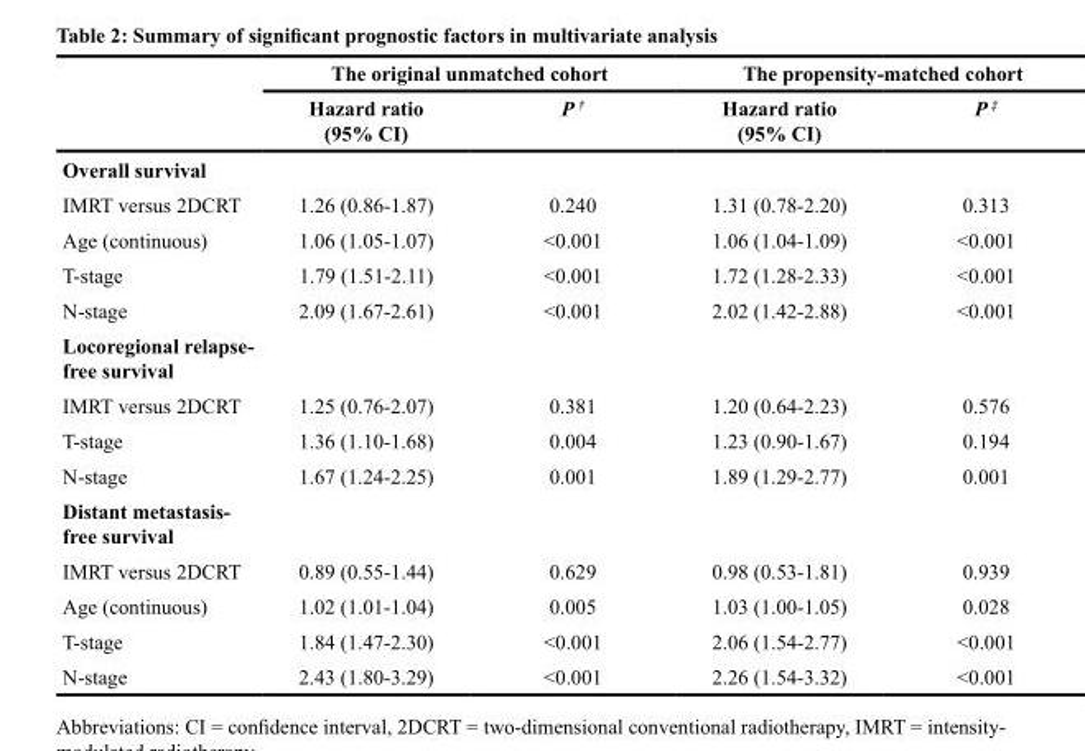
<table><thead><tr><td rowspan="2"></td><td colspan="2">The original unmatched cohort</td><td colspan="2">The propensity-matched cohort</td></tr><tr><td>Hazard ratio (95% CI)</td><td>P <sup>†</sup></td><td>Hazard ratio (95% CI)</td><td>P <sup>‡</sup></td></tr></thead><tbody><tr><td colspan="5">Overall survival</td></tr><tr><td>IMRT versus 2DCRT</td><td>1.26 (0.86-1.87)</td><td>0.240</td><td>1.31 (0.78-2.20)</td><td>0.313</td></tr><tr><td>Age (continuous)</td><td>1.06 (1.05-1.07)</td><td>&lt;0.001</td><td>1.06 (1.04-1.09)</td><td>&lt;0.001</td></tr><tr><td>T-stage</td><td>1.79 (1.51-2.11)</td><td>&lt;0.001</td><td>1.72 (1.28-2.33)</td><td>&lt;0.001</td></tr><tr><td>N-stage</td><td>2.09 (1.67-2.61)</td><td>&lt;0.001</td><td>2.02 (1.42-2.88)</td><td>&lt;0.001</td></tr><tr><td colspan="5">Locoregional relapse- free survival</td></tr><tr><td>IMRT versus 2DCRT</td><td>1.25 (0.76-2.07)</td><td>0.381</td><td>1.20 (0.64-2.23)</td><td>0.576</td></tr><tr><td>T-stage</td><td>1.36 (1.10-1.68)</td><td>0.004</td><td>1.23 (0.90-1.67)</td><td>0.194</td></tr><tr><td>N-stage</td><td>1.67 (1.24-2.25)</td><td>0.001</td><td>1.89 (1.29-2.77)</td><td>0.001</td></tr><tr><td colspan="5">Distant metastasis- free survival</td></tr><tr><td>IMRT versus 2DCRT</td><td>0.89 (0.55-1.44)</td><td>0.629</td><td>0.98 (0.53-1.81)</td><td>0.939</td></tr><tr><td>Age (continuous)</td><td>1.02 (1.01-1.04)</td><td>0.005</td><td>1.03 (1.00-1.05)</td><td>0.028</td></tr><tr><td>T-stage</td><td>1.84 (1.47-2.30)</td><td>&lt;0.001</td><td>2.06 (1.54-2.77)</td><td>&lt;0.001</td></tr><tr><td>N-stage</td><td>2.43 (1.80-3.29)</td><td>&lt;0.001</td><td>2.26 (1.54-3.32)</td><td>&lt;0.001</td></tr></tbody></table>